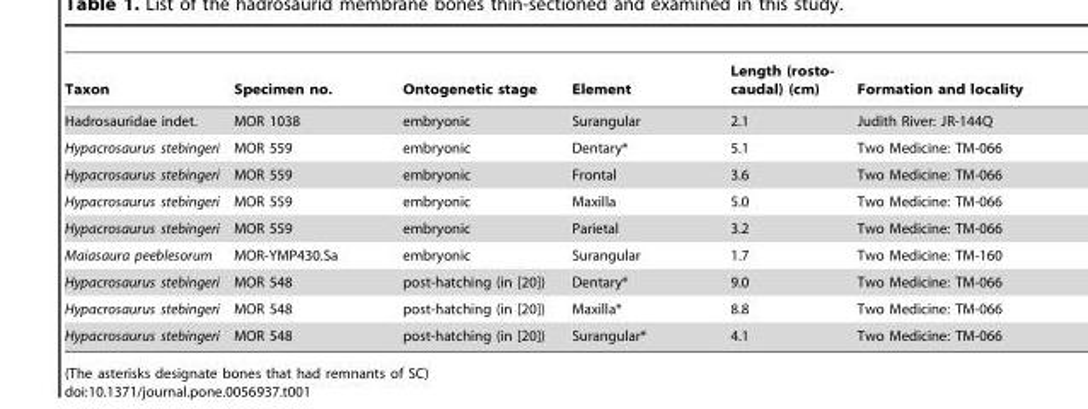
<table><thead><tr><td>Taxon</td><td>Specimen no.</td><td>Ontogenetic stage</td><td>Element</td><td>Length (rosto- caudal) (cm)</td><td>Formation and locality</td></tr></thead><tbody><tr><td>Hadrosauridae indet.</td><td>MOR 1038</td><td>embryonic</td><td>Surangular</td><td>2.1</td><td>Judith River: JR-144Q</td></tr><tr><td>Hypacrosaurus stebingeri</td><td>MOR 559</td><td>embryonic</td><td>Dentary*</td><td>5.1</td><td>Two Medicine: TM-066</td></tr><tr><td>Hypacrosaurus stebingeri</td><td>MOR 559</td><td>embryonic</td><td>Frontal</td><td>3.6</td><td>Two Medicine: TM-066</td></tr><tr><td>Hypacrosaurus stebingeri</td><td>MOR 559</td><td>embryonic</td><td>Maxilla</td><td>5.0</td><td>Two Medicine: TM-066</td></tr><tr><td>Hypacrosaurus stebingeri</td><td>MOR 559</td><td>embryonic</td><td>Parietal</td><td>3.2</td><td>Two Medicine: TM-066</td></tr><tr><td>Maiasaura peeblesorum</td><td>MOR-YMP430.Sa</td><td>embryonic</td><td>Surangular</td><td>1.7</td><td>Two Medicine: TM-160</td></tr><tr><td>Hypacrosaurus stebingeri</td><td>MOR 548</td><td>post-hatching (in [20])</td><td>Dentary*</td><td>9.0</td><td>Two Medicine: TM-066</td></tr><tr><td>Hypacrosaurus stebingeri</td><td>MOR 548</td><td>post-hatching (in [20])</td><td>Maxilla*</td><td>8.8</td><td>Two Medicine: TM-066</td></tr><tr><td>Hypacrosaurus stebingeri</td><td>MOR 548</td><td>post-hatching (in [20])</td><td>Surangular*</td><td>4.1</td><td>Two Medicine: TM-066</td></tr></tbody></table>